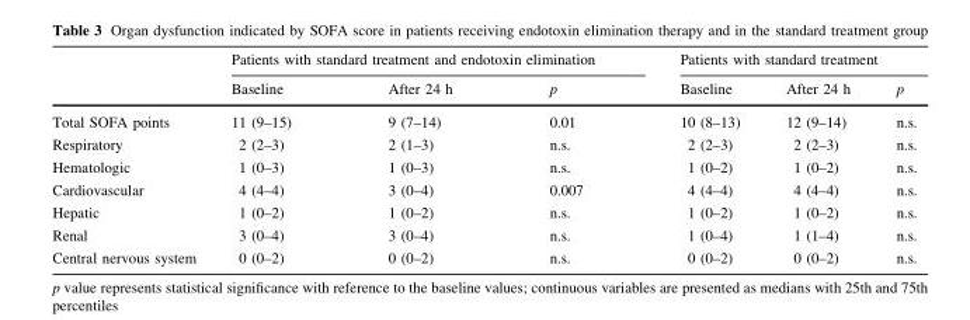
<table><thead><tr><td rowspan="2"></td><td colspan="3">Patients with standard treatment and endotoxin elimination</td><td colspan="3">Patients with standard treatment</td></tr><tr><td>Baseline</td><td>After 24 h</td><td>p</td><td>Baseline</td><td>After 24 h</td><td>p</td></tr></thead><tbody><tr><td>Total SOFA points</td><td>11 (9–15)</td><td>9 (7–14)</td><td>0.01</td><td>10 (8–13)</td><td>12 (9–14)</td><td>n.s.</td></tr><tr><td>Respiratory</td><td>2 (2–3)</td><td>2 (1–3)</td><td>n.s.</td><td>2 (2–3)</td><td>2 (2–3)</td><td>n.s.</td></tr><tr><td>Hematologic</td><td>1 (0–3)</td><td>1 (0–3)</td><td>n.s.</td><td>1 (0–2)</td><td>1 (0–2)</td><td>n.s.</td></tr><tr><td>Cardiovascular</td><td>4 (4–4)</td><td>3 (0–4)</td><td>0.007</td><td>4 (4–4)</td><td>4 (4–4)</td><td>n.s.</td></tr><tr><td>Hepatic</td><td>1 (0–2)</td><td>1 (0–2)</td><td>n.s.</td><td>1 (0–2)</td><td>1 (0–2)</td><td>n.s.</td></tr><tr><td>Renal</td><td>3 (0–4)</td><td>3 (0–4)</td><td>n.s.</td><td>1 (0–4)</td><td>1 (1–4)</td><td>n.s.</td></tr><tr><td>Central nervous system</td><td>0 (0–2)</td><td>0 (0–2)</td><td>n.s.</td><td>0 (0–2)</td><td>0 (0–2)</td><td>n.s.</td></tr></tbody></table>